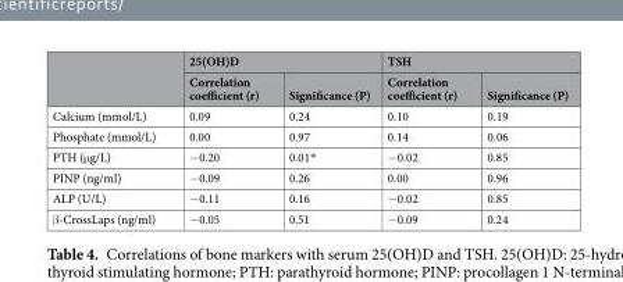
<table><thead><tr><td rowspan="2"></td><td colspan="2">25(OH)D</td><td colspan="2">TSH</td></tr><tr><td>Correlation coefficient (r)</td><td>Significance (P)</td><td>Correlation coefficient (r)</td><td>Significance (P)</td></tr></thead><tbody><tr><td>Calcium (mmol/L)</td><td>0.09</td><td>0.24</td><td>0.10</td><td>0.19</td></tr><tr><td>Phosphate (mmol/L)</td><td>0.00</td><td>0.97</td><td>0.14</td><td>0.06</td></tr><tr><td>PTH (μg/L)</td><td>−0.20</td><td>0.01*</td><td>−0.02</td><td>0.85</td></tr><tr><td>PINP (ng/ml)</td><td>−0.09</td><td>0.26</td><td>0.00</td><td>0.96</td></tr><tr><td>ALP (U/L)</td><td>−0.11</td><td>0.16</td><td>−0.02</td><td>0.85</td></tr><tr><td>β-CrossLaps (ng/ml)</td><td>−0.05</td><td>0.51</td><td>−0.09</td><td>0.24</td></tr></tbody></table>